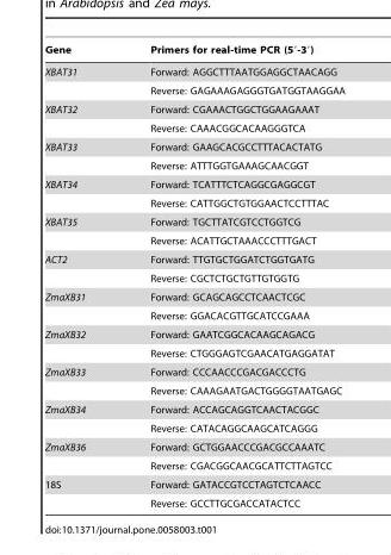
<table><thead><tr><td>Gene</td><td>Primers for real-time PCR (5′-3′)</td></tr></thead><tbody><tr><td rowspan="2">XBAT31</td><td>Forward: AGGCTTTAATGGAGGCTAACAGG</td></tr><tr><td>Reverse: GAGAAAGAGGGTGATGGTAAGGAA</td></tr><tr><td rowspan="2">XBAT32</td><td>Forward: CGAAACTGGCTGGAAGAAAT</td></tr><tr><td>Reverse: CAAACGGCACAAGGGTCA</td></tr><tr><td rowspan="2">XBAT33</td><td>Forward: GAAGCACGCCTTTACACTATG</td></tr><tr><td>Reverse: ATTTGGTGAAAGCAACGGT</td></tr><tr><td rowspan="2">XBAT34</td><td>Forward: TCATTTCTCAGGCGAGGCGT</td></tr><tr><td>Reverse: CATTGGCTGTGGAACTCCTTTAC</td></tr><tr><td rowspan="2">XBAT35</td><td>Forward: TGCTTATCGTCCTGGTCG</td></tr><tr><td>Reverse: ACATTGCTAAACCCTTTGACT</td></tr><tr><td rowspan="2">ACT2</td><td>Forward: TTGTGCTGGATCTGGTGATG</td></tr><tr><td>Reverse: CGCTCTGCTGTTGTGGTG</td></tr><tr><td rowspan="2">ZmaXB31</td><td>Forward: GCAGCAGCCTCAACTCGC</td></tr><tr><td>Reverse: GGACACGTTGCATCCGAAA</td></tr><tr><td rowspan="2">ZmaXB32</td><td>Forward: GAATCGGCACAAGCAGACG</td></tr><tr><td>Reverse: CTGGGAGTCGAACATGAGGATAT</td></tr><tr><td rowspan="2">ZmaXB33</td><td>Forward: CCCAACCCGACGACCCTG</td></tr><tr><td>Reverse: CAAAGAATGACTGGGGTAATGAGC</td></tr><tr><td rowspan="2">ZmaXB34</td><td>Forward: ACCAGCAGGTCAACTACGGC</td></tr><tr><td>Reverse: CATACAGGCAAGCATCAGGG</td></tr><tr><td rowspan="2">ZmaXB36</td><td>Forward: GCTGGAACCCGACGCCAAATC</td></tr><tr><td>Reverse: CGACGGCAACGCATTCTTAGTCC</td></tr><tr><td rowspan="2">18S</td><td>Forward: GATACCGTCCTAGTCTCAACC</td></tr><tr><td>Reverse: GCCTTGCGACCATACTCC</td></tr></tbody></table>